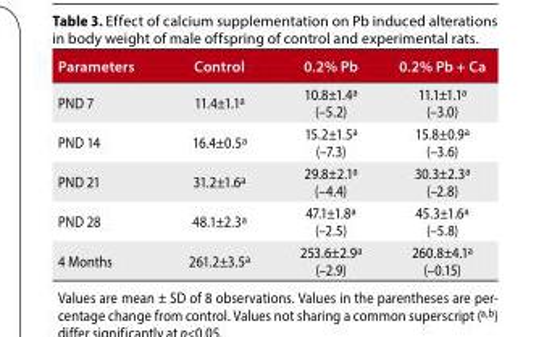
<table><thead><tr><td>Parameters</td><td>Control</td><td>0.2% Pb</td><td>0.2% Pb + Ca</td></tr></thead><tbody><tr><td>PND 7</td><td>11.4±1.1<sup>a</sup></td><td>10.8±1.4<sup>a</sup> (–5.2)</td><td>11.1±1.1<sup>a</sup> (–3.0)</td></tr><tr><td>PND 14</td><td>16.4±0.5<sup>a</sup></td><td>15.2±1.5<sup>a</sup> (–7.3)</td><td>15.8±0.9<sup>a</sup> (–3.6)</td></tr><tr><td>PND 21</td><td>31.2±1.6<sup>a</sup></td><td>29.8±2.1<sup>a</sup> (–4.4)</td><td>30.3±2.3<sup>a</sup> (–2.8)</td></tr><tr><td>PND 28</td><td>48.1±2.3<sup>a</sup></td><td>47.1±1.8<sup>a</sup> (–2.5)</td><td>45.3±1.6<sup>a</sup> (–5.8)</td></tr><tr><td>4 Months</td><td>261.2±3.5<sup>a</sup></td><td>253.6±2.9<sup>a</sup> (–2.9)</td><td>260.8±4.1<sup>a</sup> (–0.15)</td></tr></tbody></table>